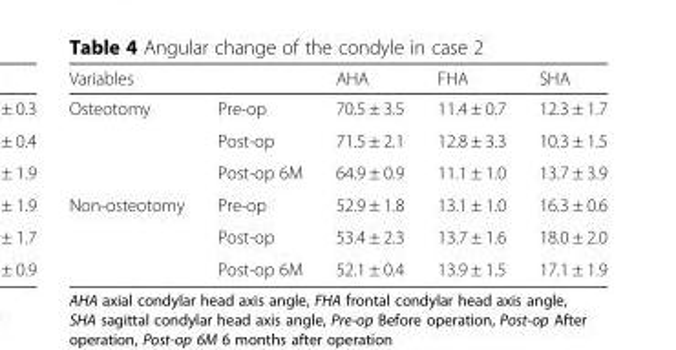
<table><thead><tr><td>Variables</td><td></td><td>AHA</td><td>FHA</td><td>SHA</td></tr></thead><tbody><tr><td rowspan="3">Osteotomy</td><td>Pre-op</td><td>70.5 ± 3.5</td><td>11.4 ± 0.7</td><td>12.3 ± 1.7</td></tr><tr><td>Post-op</td><td>71.5 ± 2.1</td><td>12.8 ± 3.3</td><td>10.3 ± 1.5</td></tr><tr><td>Post-op 6M</td><td>64.9 ± 0.9</td><td>11.1 ± 1.0</td><td>13.7 ± 3.9</td></tr><tr><td rowspan="3">Non-osteotomy</td><td>Pre-op</td><td>52.9 ± 1.8</td><td>13.1 ± 1.0</td><td>16.3 ± 0.6</td></tr><tr><td>Post-op</td><td>53.4 ± 2.3</td><td>13.7 ± 1.6</td><td>18.0 ± 2.0</td></tr><tr><td>Post-op 6M</td><td>52.1 ± 0.4</td><td>13.9 ± 1.5</td><td>17.1 ± 1.9</td></tr></tbody></table>